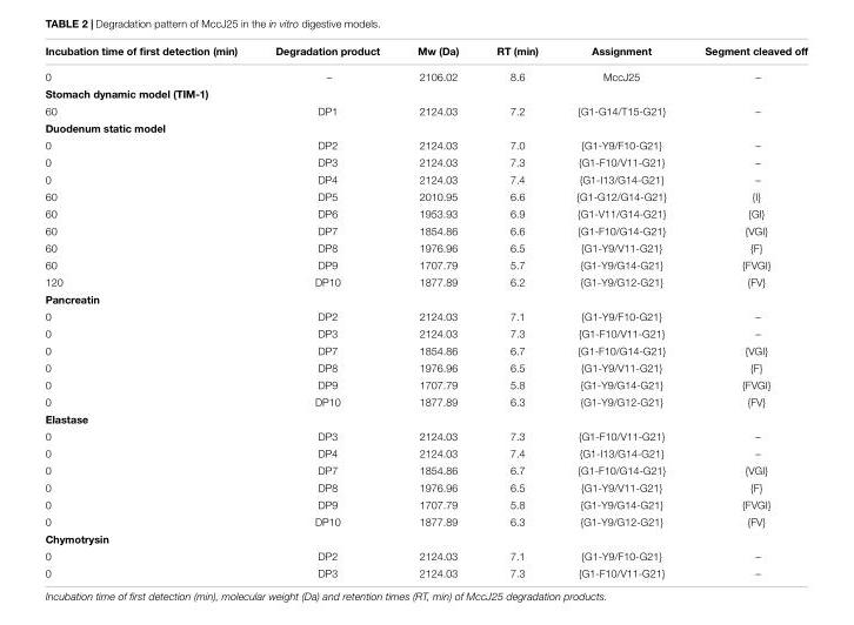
<table><thead><tr><td>Incubation time of first detection (min)</td><td>Degradation product</td><td>Mw (Da)</td><td>RT (min)</td><td>Assignment</td><td>Segment cleaved off</td></tr></thead><tbody><tr><td>0</td><td>–</td><td>2106.02</td><td>8.6</td><td>MccJ25</td><td>–</td></tr><tr><td colspan="6">Stomach dynamic model (TIM-1)</td></tr><tr><td>60</td><td>DP1</td><td>2124.03</td><td>7.2</td><td>{G1-G14/T15-G21}</td><td>–</td></tr><tr><td colspan="6">Duodenum static model</td></tr><tr><td>0</td><td>DP2</td><td>2124.03</td><td>7.0</td><td>{G1-Y9/F10-G21}</td><td>–</td></tr><tr><td>0</td><td>DP3</td><td>2124.03</td><td>7.3</td><td>{G1-F10/V11-G21}</td><td>–</td></tr><tr><td>0</td><td>DP4</td><td>2124.03</td><td>7.4</td><td>{G1-I13/G14-G21}</td><td>–</td></tr><tr><td>60</td><td>DP5</td><td>2010.95</td><td>6.6</td><td>{G1-G12/G14-G21}</td><td>{I}</td></tr><tr><td>60</td><td>DP6</td><td>1953.93</td><td>6.9</td><td>{G1-V11/G14-G21}</td><td>{GI}</td></tr><tr><td>60</td><td>DP7</td><td>1854.86</td><td>6.6</td><td>{G1-F10/G14-G21}</td><td>{VGI}</td></tr><tr><td>60</td><td>DP8</td><td>1976.96</td><td>6.5</td><td>{G1-Y9/V11-G21}</td><td>{F}</td></tr><tr><td>60</td><td>DP9</td><td>1707.79</td><td>5.7</td><td>{G1-Y9/G14-G21}</td><td>{FVGI}</td></tr><tr><td>120</td><td>DP10</td><td>1877.89</td><td>6.2</td><td>{G1-Y9/G12-G21}</td><td>{FV}</td></tr><tr><td colspan="6">Pancreatin</td></tr><tr><td>0</td><td>DP2</td><td>2124.03</td><td>7.1</td><td>{G1-Y9/F10-G21}</td><td>–</td></tr><tr><td>0</td><td>DP3</td><td>2124.03</td><td>7.3</td><td>{G1-F10/V11-G21}</td><td>–</td></tr><tr><td>0</td><td>DP7</td><td>1854.86</td><td>6.7</td><td>{G1-F10/G14-G21}</td><td>{VGI}</td></tr><tr><td>0</td><td>DP8</td><td>1976.96</td><td>6.5</td><td>{G1-Y9/V11-G21}</td><td>{F}</td></tr><tr><td>0</td><td>DP9</td><td>1707.79</td><td>5.8</td><td>{G1-Y9/G14-G21}</td><td>{FVGI}</td></tr><tr><td>0</td><td>DP10</td><td>1877.89</td><td>6.3</td><td>{G1-Y9/G12-G21}</td><td>{FV}</td></tr><tr><td colspan="6">Elastase</td></tr><tr><td>0</td><td>DP3</td><td>2124.03</td><td>7.3</td><td>{G1-F10/V11-G21}</td><td>–</td></tr><tr><td>0</td><td>DP4</td><td>2124.03</td><td>7.4</td><td>{G1-I13/G14-G21}</td><td>–</td></tr><tr><td>0</td><td>DP7</td><td>1854.86</td><td>6.7</td><td>{G1-F10/G14-G21}</td><td>{VGI}</td></tr><tr><td>0</td><td>DP8</td><td>1976.96</td><td>6.5</td><td>{G1-Y9/V11-G21}</td><td>{F}</td></tr><tr><td>0</td><td>DP9</td><td>1707.79</td><td>5.8</td><td>{G1-Y9/G14-G21}</td><td>{FVGI}</td></tr><tr><td>0</td><td>DP10</td><td>1877.89</td><td>6.3</td><td>{G1-Y9/G12-G21}</td><td>{FV}</td></tr><tr><td colspan="6">Chymotrysin</td></tr><tr><td>0</td><td>DP2</td><td>2124.03</td><td>7.1</td><td>{G1-Y9/F10-G21}</td><td>–</td></tr><tr><td>0</td><td>DP3</td><td>2124.03</td><td>7.3</td><td>{G1-F10/V11-G21}</td><td>–</td></tr></tbody></table>